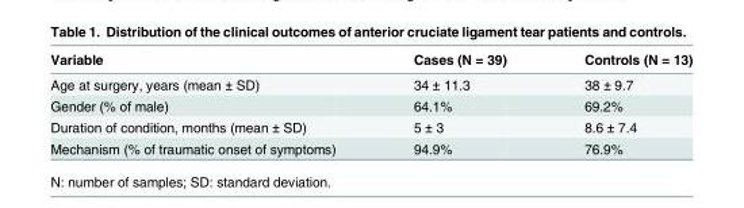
<table><thead><tr><td>Variable</td><td>Cases (N = 39)</td><td>Controls (N = 13)</td></tr></thead><tbody><tr><td>Age at surgery, years (mean ± SD)</td><td>34 ± 11.3</td><td>38 ± 9.7</td></tr><tr><td>Gender (% of male)</td><td>64.1%</td><td>69.2%</td></tr><tr><td>Duration of condition, months (mean ± SD)</td><td>5 ± 3</td><td>8.6 ± 7.4</td></tr><tr><td>Mechanism (% of traumatic onset of symptoms)</td><td>94.9%</td><td>76.9%</td></tr></tbody></table>